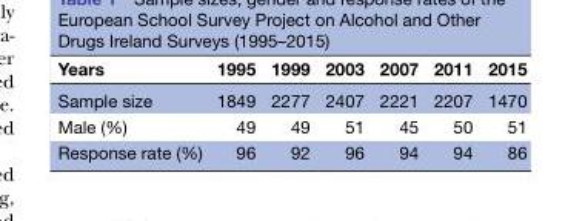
<table><thead><tr><td>Years</td><td>1995</td><td>1999</td><td>2003</td><td>2007</td><td>2011</td><td>2015</td></tr></thead><tbody><tr><td>Sample size</td><td>1849</td><td>2277</td><td>2407</td><td>2221</td><td>2207</td><td>1470</td></tr><tr><td>Male (%)</td><td>49</td><td>49</td><td>51</td><td>45</td><td>50</td><td>51</td></tr><tr><td>Response rate (%)</td><td>96</td><td>92</td><td>96</td><td>94</td><td>94</td><td>86</td></tr></tbody></table>